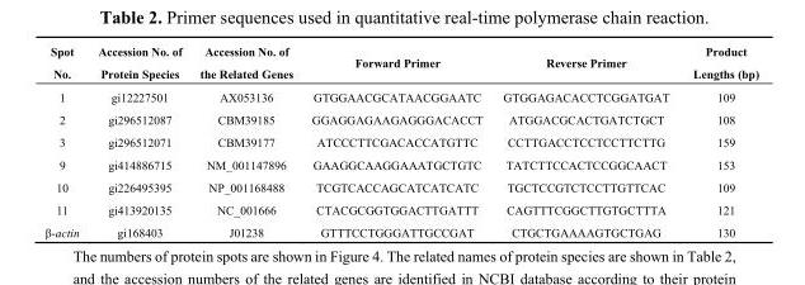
<table><thead><tr><td>Spot No.</td><td>Accession No. of Protein Species</td><td>Accession No. of the Related Genes</td><td>Forward Primer</td><td>Reverse Primer</td><td>Product Lengths (bp)</td></tr></thead><tbody><tr><td>1</td><td>gi12227501</td><td>AX053136</td><td>GTGGAACGCATAACGGAATC</td><td>GTGGAGACACCTCGGATGAT</td><td>109</td></tr><tr><td>2</td><td>gi296512087</td><td>CBM39185</td><td>GGAGGAGAAGAGGGACACCT</td><td>ATGGACGCACTGATCTGCT</td><td>108</td></tr><tr><td>3</td><td>gi296512071</td><td>CBM39177</td><td>ATCCCTTCGACACCATGTTC</td><td>CCTTGACCTCCTCCTTCTTG</td><td>159</td></tr><tr><td>9</td><td>gi414886715</td><td>NM_001147896</td><td>GAAGGCAAGGAAATGCTGTC</td><td>TATCTTCCACTCCGGCAACT</td><td>153</td></tr><tr><td>10</td><td>gi226495395</td><td>NP_001168488</td><td>TCGTCACCAGCATCATCATC</td><td>TGCTCCGTCTCCTTGTTCAC</td><td>109</td></tr><tr><td>11</td><td>gi413920135</td><td>NC_001666</td><td>CTACGCGGTGGACTTGATTT</td><td>CAGTTTCGGCTTGTGCTTTA</td><td>121</td></tr><tr><td>β-actin</td><td>gi168403</td><td>J01238</td><td>GTTTCCTGGGATTGCCGAT</td><td>CTGCTGAAAAGTGCTGAG</td><td>130</td></tr></tbody></table>